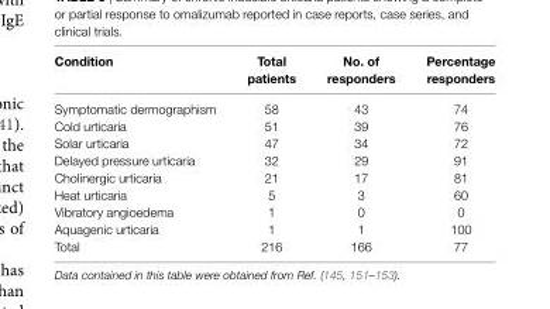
<table><thead><tr><td>Condition</td><td>Total patients</td><td>No. of responders</td><td>Percentage responders</td></tr></thead><tbody><tr><td>Symptomatic dermographism</td><td>58</td><td>43</td><td>74</td></tr><tr><td>Cold urticaria</td><td>51</td><td>39</td><td>76</td></tr><tr><td>Solar urticaria</td><td>47</td><td>34</td><td>72</td></tr><tr><td>Delayed pressure urticaria</td><td>32</td><td>29</td><td>91</td></tr><tr><td>Cholinergic urticaria</td><td>21</td><td>17</td><td>81</td></tr><tr><td>Heat urticaria</td><td>5</td><td>3</td><td>60</td></tr><tr><td>Vibratory angioedema</td><td>1</td><td>0</td><td>0</td></tr><tr><td>Aquagenic urticaria</td><td>1</td><td>1</td><td>100</td></tr><tr><td>Total</td><td>216</td><td>166</td><td>77</td></tr></tbody></table>